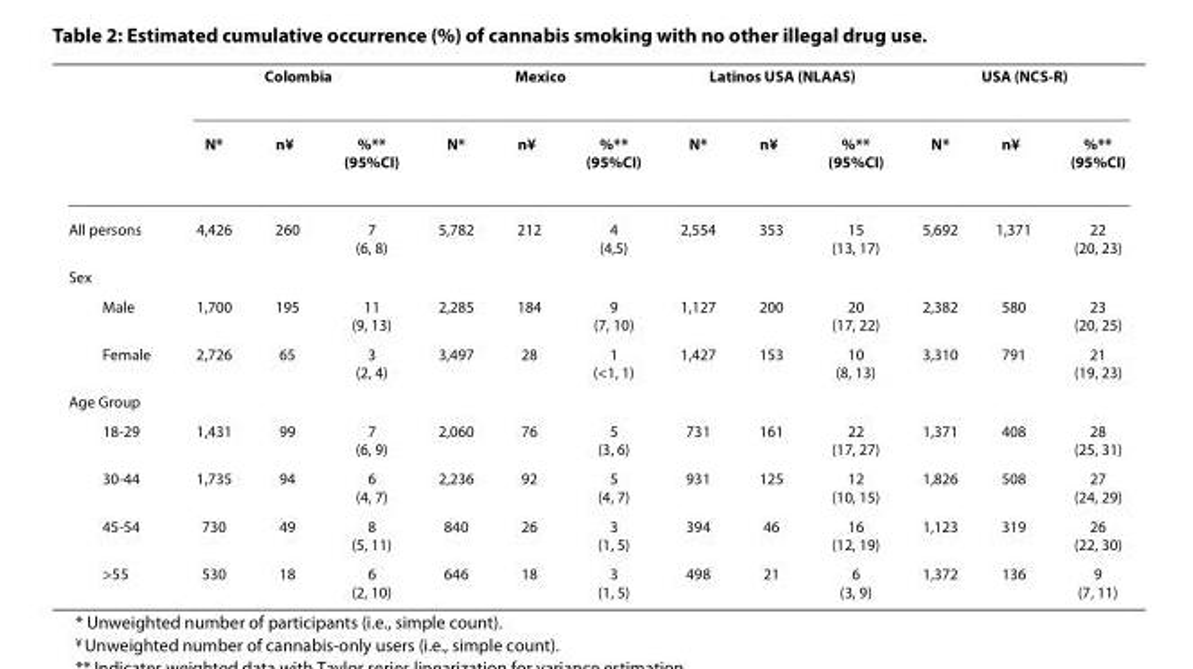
<table><thead><tr><td rowspan="2"></td><td colspan="3">Colombia</td><td colspan="3">Mexico</td><td colspan="3">Latinos USA (NLAAS)</td><td colspan="3">USA (NCS-R)</td></tr><tr><td>N*</td><td>n<sup>¥</sup></td><td>%** (95%CI)</td><td>N*</td><td>n<sup>¥</sup></td><td>%** (95%CI)</td><td>N*</td><td>n<sup>¥</sup></td><td>%** (95%CI)</td><td>N*</td><td>n<sup>¥</sup></td><td>%** (95%CI)</td></tr></thead><tbody><tr><td>All persons</td><td>4,426</td><td>260</td><td>7 (6, 8)</td><td>5,782</td><td>212</td><td>4 (4,5)</td><td>2,554</td><td>353</td><td>15 (13, 17)</td><td>5,692</td><td>1,371</td><td>22 (20, 23)</td></tr><tr><td colspan="13">Sex</td></tr><tr><td>Male</td><td>1,700</td><td>195</td><td>11 (9, 13)</td><td>2,285</td><td>184</td><td>9 (7, 10)</td><td>1,127</td><td>200</td><td>20 (17, 22)</td><td>2,382</td><td>580</td><td>23 (20, 25)</td></tr><tr><td>Female</td><td>2,726</td><td>65</td><td>3 (2, 4)</td><td>3,497</td><td>28</td><td>1 (&lt;1, 1)</td><td>1,427</td><td>153</td><td>10 (8, 13)</td><td>3,310</td><td>791</td><td>21 (19, 23)</td></tr><tr><td colspan="13">Age Group</td></tr><tr><td>18-29</td><td>1,431</td><td>99</td><td>7 (6, 9)</td><td>2,060</td><td>76</td><td>5 (3, 6)</td><td>731</td><td>161</td><td>22 (17, 27)</td><td>1,371</td><td>408</td><td>28 (25, 31)</td></tr><tr><td>30-44</td><td>1,735</td><td>94</td><td>6 (4, 7)</td><td>2,236</td><td>92</td><td>5 (4, 7)</td><td>931</td><td>125</td><td>12 (10, 15)</td><td>1,826</td><td>508</td><td>27 (24, 29)</td></tr><tr><td>45-54</td><td>730</td><td>49</td><td>8 (5, 11)</td><td>840</td><td>26</td><td>3 (1, 5)</td><td>394</td><td>46</td><td>16 (12, 19)</td><td>1,123</td><td>319</td><td>26 (22, 30)</td></tr><tr><td>&gt;55</td><td>530</td><td>18</td><td>6 (2, 10)</td><td>646</td><td>18</td><td>3 (1, 5)</td><td>498</td><td>21</td><td>6 (3, 9)</td><td>1,372</td><td>136</td><td>9 (7, 11)</td></tr></tbody></table>